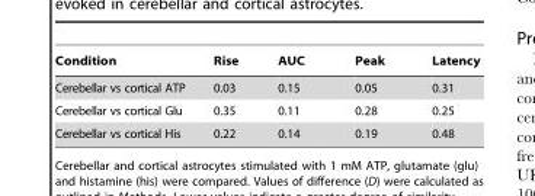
<table><thead><tr><td>Condition</td><td>Rise</td><td>AUC</td><td>Peak</td><td>Latency</td></tr></thead><tbody><tr><td>Cerebellar vs cortical ATP</td><td>0.03</td><td>0.15</td><td>0.05</td><td>0.31</td></tr><tr><td>Cerebellar vs cortical Glu</td><td>0.35</td><td>0.11</td><td>0.28</td><td>0.25</td></tr><tr><td>Cerebellar vs cortical His</td><td>0.22</td><td>0.14</td><td>0.19</td><td>0.48</td></tr></tbody></table>